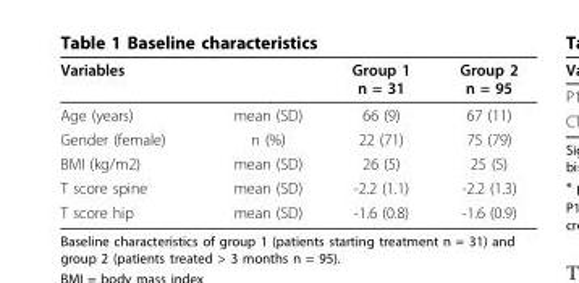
<table><thead><tr><td>Variables</td><td></td><td>Group 1 n = 31</td><td>Group 2 n = 95</td></tr></thead><tbody><tr><td>Age (years)</td><td>mean (SD)</td><td>66 (9)</td><td>67 (11)</td></tr><tr><td>Gender (female)</td><td>n (%)</td><td>22 (71)</td><td>75 (79)</td></tr><tr><td>BMI (kg/m2)</td><td>mean (SD)</td><td>26 (5)</td><td>25 (5)</td></tr><tr><td>T score spine</td><td>mean (SD)</td><td>-2.2 (1.1)</td><td>-2.2 (1.3)</td></tr><tr><td>T score hip</td><td>mean (SD)</td><td>-1.6 (0.8)</td><td>-1.6 (0.9)</td></tr></tbody></table>